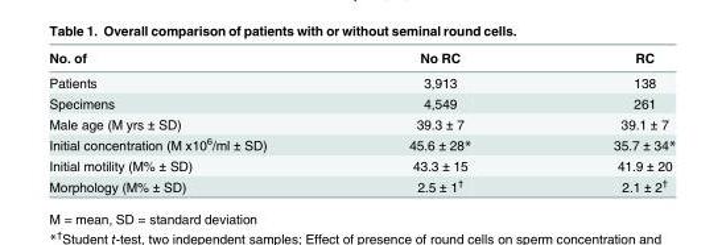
<table><thead><tr><td>No. of</td><td>No RC</td><td>RC</td></tr></thead><tbody><tr><td>Patients</td><td>3,913</td><td>138</td></tr><tr><td>Specimens</td><td>4,549</td><td>261</td></tr><tr><td>Male age (M yrs ± SD)</td><td>39.3 ± 7</td><td>39.1 ± 7</td></tr><tr><td>Initial concentration (M x10<sup>6</sup>/ml ± SD)</td><td>45.6 ± 28*</td><td>35.7 ± 34*</td></tr><tr><td>Initial motility (M% ± SD)</td><td>43.3 ± 15</td><td>41.9 ± 20</td></tr><tr><td>Morphology (M% ± SD)</td><td>2.5 ± 1<sup>†</sup></td><td>2.1 ± 2<sup>†</sup></td></tr></tbody></table>